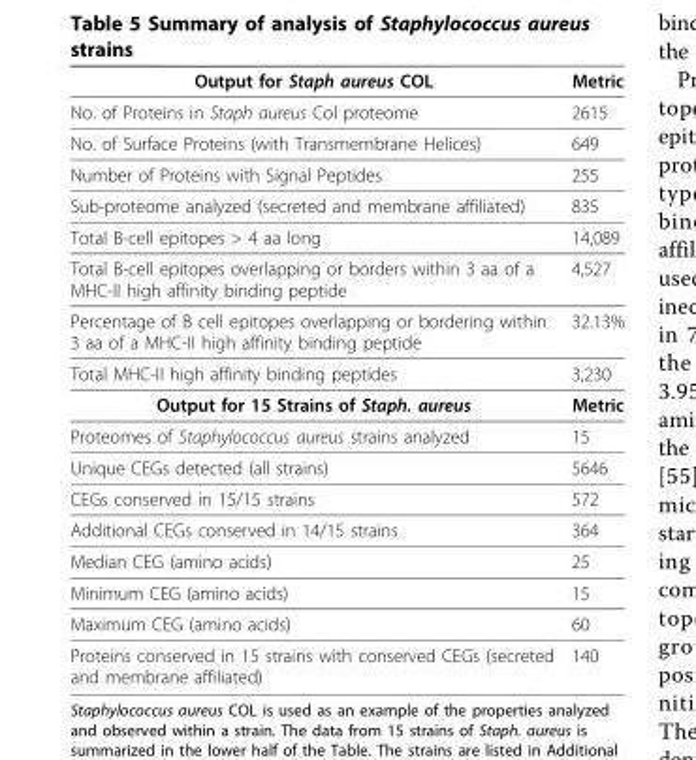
<table><thead><tr><td>Output for Staph aureus COL</td><td>Metric</td></tr></thead><tbody><tr><td>No. of Proteins in Staph aureus Col proteome</td><td>2615</td></tr><tr><td>No. of Surface Proteins (with Transmembrane Helices)</td><td>649</td></tr><tr><td>Number of Proteins with Signal Peptides</td><td>255</td></tr><tr><td>Sub-proteome analyzed (secreted and membrane affiliated)</td><td>835</td></tr><tr><td>Total B-cell epitopes &gt; 4 aa long</td><td>14,089</td></tr><tr><td>Total B-cell epitopes overlapping or borders within 3 aa of a MHC-II high affinity binding peptide</td><td>4,527</td></tr><tr><td>Percentage of B cell epitopes overlapping or bordering within 3 aa of a MHC-II high affinity binding peptide</td><td>32.13%</td></tr><tr><td>Total MHC-II high affinity binding peptides</td><td>3,230</td></tr><tr><td>Output for 15 Strains of Staph. aureus</td><td>Metric</td></tr><tr><td>Proteomes of Staphylococcus aureus strains analyzed</td><td>15</td></tr><tr><td>Unique CEGs detected (all strains)</td><td>5646</td></tr><tr><td>CEGs conserved in 15/15 strains</td><td>572</td></tr><tr><td>Additional CEGs conserved in 14/15 strains</td><td>364</td></tr><tr><td>Median CEG (amino acids)</td><td>25</td></tr><tr><td>Minimum CEG (amino acids)</td><td>15</td></tr><tr><td>Maximum CEG (amino acids)</td><td>60</td></tr><tr><td>Proteins conserved in 15 strains with conserved CEGs (secreted and membrane affiliated)</td><td>140</td></tr></tbody></table>